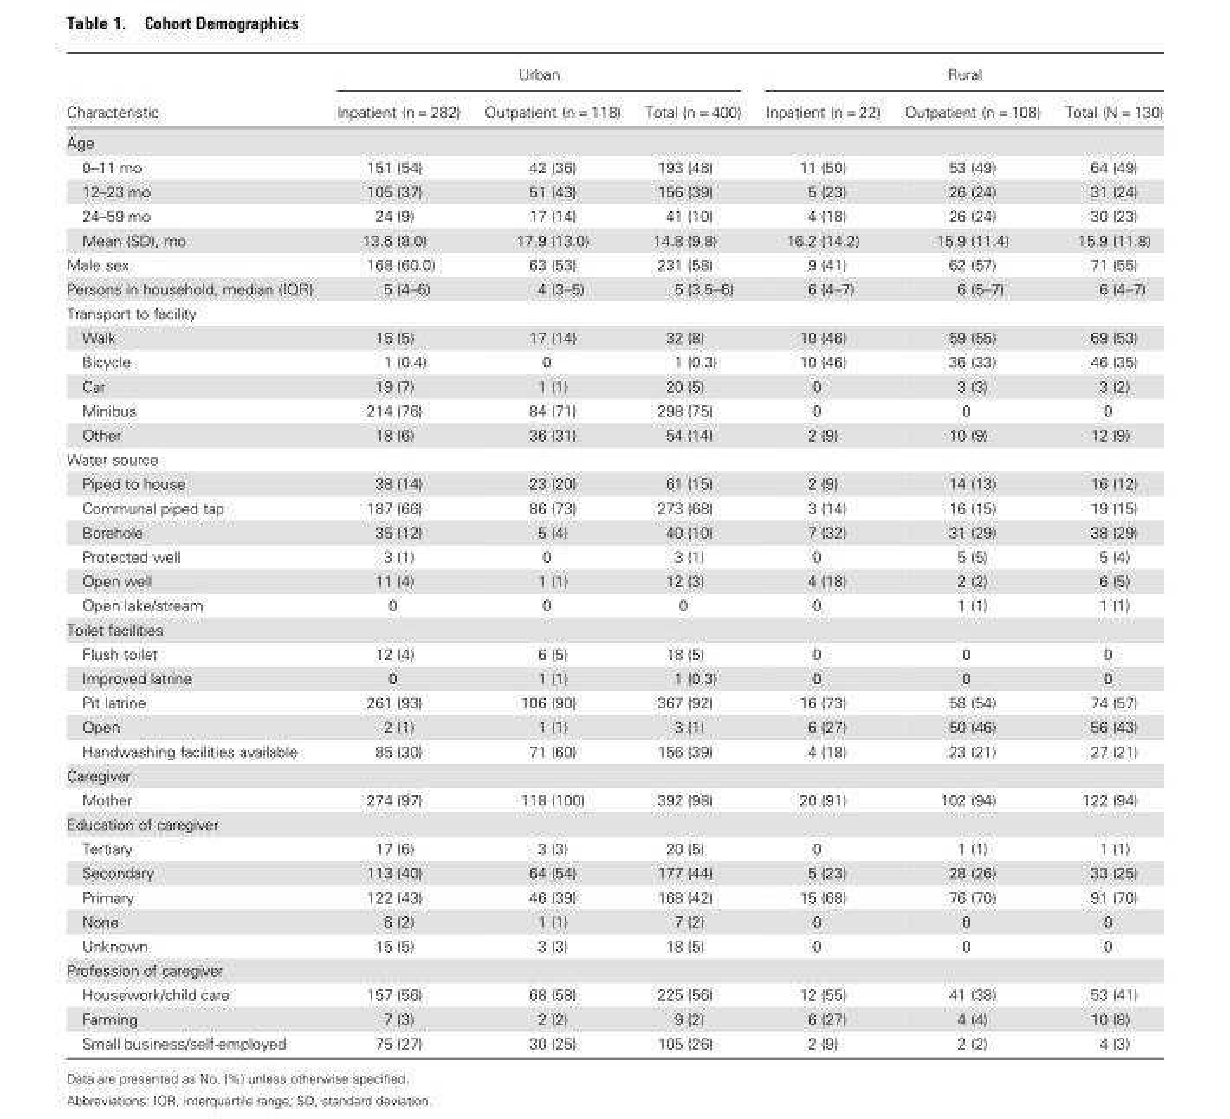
<table><thead><tr><td rowspan="2">Characteristic</td><td colspan="3">Urban</td><td colspan="3">Rural</td></tr><tr><td>Inpatient (n = 282)</td><td>Outpatient (n = 118)</td><td>Total (n = 400)</td><td>Inpatient (n = 22)</td><td>Outpatient (n = 108)</td><td>Total (N = 130)</td></tr></thead><tbody><tr><td colspan="7">Age</td></tr><tr><td>0–11 mo</td><td>151 (54)</td><td>42 (36)</td><td>193 (48)</td><td>11 (50)</td><td>53 (49)</td><td>64 (49)</td></tr><tr><td>12–23 mo</td><td>105 (37)</td><td>51 (43)</td><td>156 (39)</td><td>5 (23)</td><td>26 (24)</td><td>31 (24)</td></tr><tr><td>24–59 mo</td><td>24 (9)</td><td>17 (14)</td><td>41 (10)</td><td>4 (18)</td><td>26 (24)</td><td>30 (23)</td></tr><tr><td>Mean (SD), mo</td><td>13.6 (8.0)</td><td>17.9 (13.0)</td><td>14.8 (9.8)</td><td>16.2 (14.2)</td><td>15.9 (11.4)</td><td>15.9 (11.8)</td></tr><tr><td>Male sex</td><td>168 (60.0)</td><td>63 (53)</td><td>231 (58)</td><td>9 (41)</td><td>62 (57)</td><td>71 (55)</td></tr><tr><td>Persons in household, median (IQR)</td><td>5 (4–6)</td><td>4 (3–5)</td><td>5 (3.5–6)</td><td>6 (4–7)</td><td>6 (5–7)</td><td>6 (4–7)</td></tr><tr><td colspan="7">Transport to facility</td></tr><tr><td>Walk</td><td>15 (5)</td><td>17 (14)</td><td>32 (8)</td><td>10 (46)</td><td>59 (55)</td><td>69 (53)</td></tr><tr><td>Bicycle</td><td>1 (0.4)</td><td>0</td><td>1 (0.3)</td><td>10 (46)</td><td>36 (33)</td><td>46 (35)</td></tr><tr><td>Car</td><td>19 (7)</td><td>1 (1)</td><td>20 (5)</td><td>0</td><td>3 (3)</td><td>3 (2)</td></tr><tr><td>Minibus</td><td>214 (76)</td><td>84 (71)</td><td>298 (75)</td><td>0</td><td>0</td><td>0</td></tr><tr><td>Other</td><td>18 (6)</td><td>36 (31)</td><td>54 (14)</td><td>2 (9)</td><td>10 (9)</td><td>12 (9)</td></tr><tr><td colspan="7">Water source</td></tr><tr><td>Piped to house</td><td>38 (14)</td><td>23 (20)</td><td>61 (15)</td><td>2 (9)</td><td>14 (13)</td><td>16 (12)</td></tr><tr><td>Communal piped tap</td><td>187 (66)</td><td>86 (73)</td><td>273 (68)</td><td>3 (14)</td><td>16 (15)</td><td>19 (15)</td></tr><tr><td>Borehole</td><td>35 (12)</td><td>5 (4)</td><td>40 (10)</td><td>7 (32)</td><td>31 (29)</td><td>38 (29)</td></tr><tr><td>Protected well</td><td>3 (1)</td><td>0</td><td>3 (1)</td><td>0</td><td>5 (5)</td><td>5 (4)</td></tr><tr><td>Open well</td><td>11 (4)</td><td>1 (1)</td><td>12 (3)</td><td>4 (18)</td><td>2 (2)</td><td>6 (5)</td></tr><tr><td>Open lake/stream</td><td>0</td><td>0</td><td>0</td><td>0</td><td>1 (1)</td><td>1 (1)</td></tr><tr><td colspan="7">Toilet facilities</td></tr><tr><td>Flush toilet</td><td>12 (4)</td><td>6 (5)</td><td>18 (5)</td><td>0</td><td>0</td><td>0</td></tr><tr><td>Improved latrine</td><td>0</td><td>1 (1)</td><td>1 (0.3)</td><td>0</td><td>0</td><td>0</td></tr><tr><td>Pit latrine</td><td>261 (93)</td><td>106 (90)</td><td>367 (92)</td><td>16 (73)</td><td>58 (54)</td><td>74 (57)</td></tr><tr><td>Open</td><td>2 (1)</td><td>1 (1)</td><td>3 (1)</td><td>6 (27)</td><td>50 (46)</td><td>56 (43)</td></tr><tr><td>Handwashing facilities available</td><td>85 (30)</td><td>71 (60)</td><td>156 (39)</td><td>4 (18)</td><td>23 (21)</td><td>27 (21)</td></tr><tr><td colspan="7">Caregiver</td></tr><tr><td>Mother</td><td>274 (97)</td><td>118 (100)</td><td>392 (98)</td><td>20 (91)</td><td>102 (94)</td><td>122 (94)</td></tr><tr><td colspan="7">Education of caregiver</td></tr><tr><td>Tertiary</td><td>17 (6)</td><td>3 (3)</td><td>20 (5)</td><td>0</td><td>1 (1)</td><td>1 (1)</td></tr><tr><td>Secondary</td><td>113 (40)</td><td>64 (54)</td><td>177 (44)</td><td>5 (23)</td><td>28 (26)</td><td>33 (25)</td></tr><tr><td>Primary</td><td>122 (43)</td><td>46 (39)</td><td>168 (42)</td><td>15 (68)</td><td>76 (70)</td><td>91 (70)</td></tr><tr><td>None</td><td>6 (2)</td><td>1 (1)</td><td>7 (2)</td><td>0</td><td>0</td><td>0</td></tr><tr><td>Unknown</td><td>15 (5)</td><td>3 (3)</td><td>18 (5)</td><td>0</td><td>0</td><td>0</td></tr><tr><td colspan="7">Profession of caregiver</td></tr><tr><td>Housework/child care</td><td>157 (56)</td><td>68 (58)</td><td>225 (56)</td><td>12 (55)</td><td>41 (38)</td><td>53 (41)</td></tr><tr><td>Farming</td><td>7 (3)</td><td>2 (2)</td><td>9 (2)</td><td>6 (27)</td><td>4 (4)</td><td>10 (8)</td></tr><tr><td>Small business/self-employed</td><td>75 (27)</td><td>30 (25)</td><td>105 (26)</td><td>2 (9)</td><td>2 (2)</td><td>4 (3)</td></tr></tbody></table>